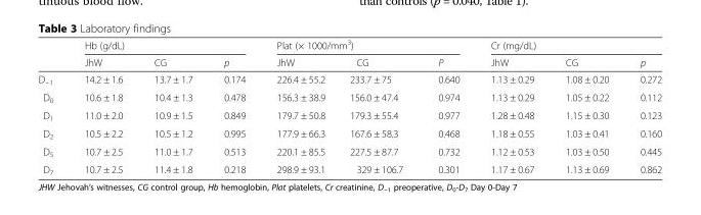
<table><thead><tr><td rowspan="2"></td><td colspan="3">Hb (g/dL)</td><td colspan="3">Plat (× 1000/mm<sup>3</sup>)</td><td colspan="3">Cr (mg/dL)</td></tr><tr><td>JhW</td><td>CG</td><td>p</td><td>JhW</td><td>CG</td><td>P</td><td>JhW</td><td>CG</td><td>p</td></tr></thead><tbody><tr><td>D<sub>−1</sub></td><td>14.2 ± 1.6</td><td>13.7 ± 1.7</td><td>0.174</td><td>226.4 ± 55.2</td><td>233.7 ± 75</td><td>0.640</td><td>1.13 ± 0.29</td><td>1.08 ± 0.20</td><td>0.272</td></tr><tr><td>D<sub>0</sub></td><td>10.6 ± 1.8</td><td>10.4 ± 1.3</td><td>0.478</td><td>156.3 ± 38.9</td><td>156.0 ± 47.4</td><td>0.974</td><td>1.13 ± 0.29</td><td>1.05 ± 0.22</td><td>0.112</td></tr><tr><td>D<sub>1</sub></td><td>11.0 ± 2.0</td><td>10.9 ± 1.5</td><td>0.849</td><td>179.7 ± 50.8</td><td>179.3 ± 55.4</td><td>0.977</td><td>1.28 ± 0.48</td><td>1.15 ± 0.30</td><td>0.123</td></tr><tr><td>D<sub>2</sub></td><td>10.5 ± 2.2</td><td>10.5 ± 1.2</td><td>0.995</td><td>177.9 ± 66.3</td><td>167.6 ± 58.3</td><td>0.468</td><td>1.18 ± 0.55</td><td>1.03 ± 0.41</td><td>0.160</td></tr><tr><td>D<sub>5</sub></td><td>10.7 ± 2.5</td><td>11.0 ± 1.7</td><td>0.513</td><td>220.1 ± 85.5</td><td>227.5 ± 87.7</td><td>0.732</td><td>1.12 ± 0.53</td><td>1.03 ± 0.50</td><td>0.445</td></tr><tr><td>D<sub>7</sub></td><td>10.7 ± 2.5</td><td>11.4 ± 1.8</td><td>0.218</td><td>298.9 ± 93.1</td><td>329 ± 106.7</td><td>0.301</td><td>1.17 ± 0.67</td><td>1.13 ± 0.69</td><td>0.862</td></tr></tbody></table>